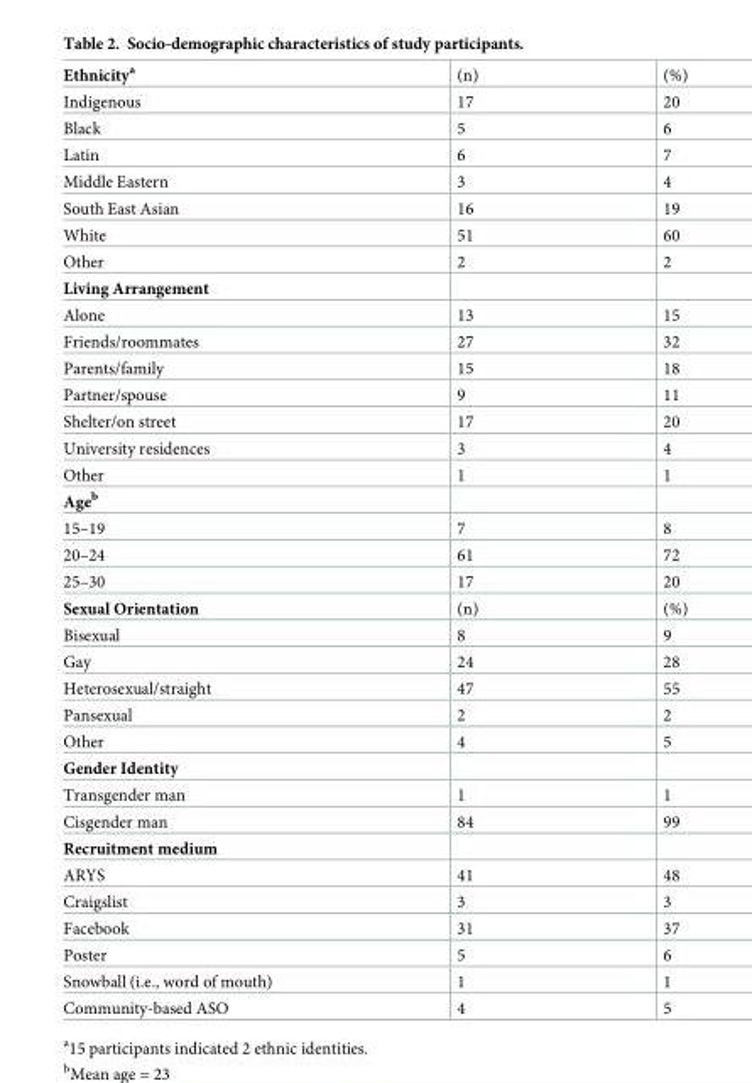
<table><tbody><tr><td>Ethnicity<sup>a</sup></td><td>(n)</td><td>(%)</td></tr><tr><td>Indigenous</td><td>17</td><td>20</td></tr><tr><td>Black</td><td>5</td><td>6</td></tr><tr><td>Latin</td><td>6</td><td>7</td></tr><tr><td>Middle Eastern</td><td>3</td><td>4</td></tr><tr><td>South East Asian</td><td>16</td><td>19</td></tr><tr><td>White</td><td>51</td><td>60</td></tr><tr><td>Other</td><td>2</td><td>2</td></tr><tr><td colspan="3">Living Arrangement</td></tr><tr><td>Alone</td><td>13</td><td>15</td></tr><tr><td>Friends/roommates</td><td>27</td><td>32</td></tr><tr><td>Parents/family</td><td>15</td><td>18</td></tr><tr><td>Partner/spouse</td><td>9</td><td>11</td></tr><tr><td>Shelter/on street</td><td>17</td><td>20</td></tr><tr><td>University residences</td><td>3</td><td>4</td></tr><tr><td>Other</td><td>1</td><td>1</td></tr><tr><td colspan="3">Age<sup>b</sup></td></tr><tr><td>15–19</td><td>7</td><td>8</td></tr><tr><td>20–24</td><td>61</td><td>72</td></tr><tr><td>25–30</td><td>17</td><td>20</td></tr><tr><td>Sexual Orientation</td><td>(n)</td><td>(%)</td></tr><tr><td>Bisexual</td><td>8</td><td>9</td></tr><tr><td>Gay</td><td>24</td><td>28</td></tr><tr><td>Heterosexual/straight</td><td>47</td><td>55</td></tr><tr><td>Pansexual</td><td>2</td><td>2</td></tr><tr><td>Other</td><td>4</td><td>5</td></tr><tr><td colspan="3">Gender Identity</td></tr><tr><td>Transgender man</td><td>1</td><td>1</td></tr><tr><td>Cisgender man</td><td>84</td><td>99</td></tr><tr><td colspan="3">Recruitment medium</td></tr><tr><td>ARYS</td><td>41</td><td>48</td></tr><tr><td>Craigslist</td><td>3</td><td>3</td></tr><tr><td>Facebook</td><td>31</td><td>37</td></tr><tr><td>Poster</td><td>5</td><td>6</td></tr><tr><td>Snowball (i.e., word of mouth)</td><td>1</td><td>1</td></tr><tr><td>Community-based ASO</td><td>4</td><td>5</td></tr></tbody></table>